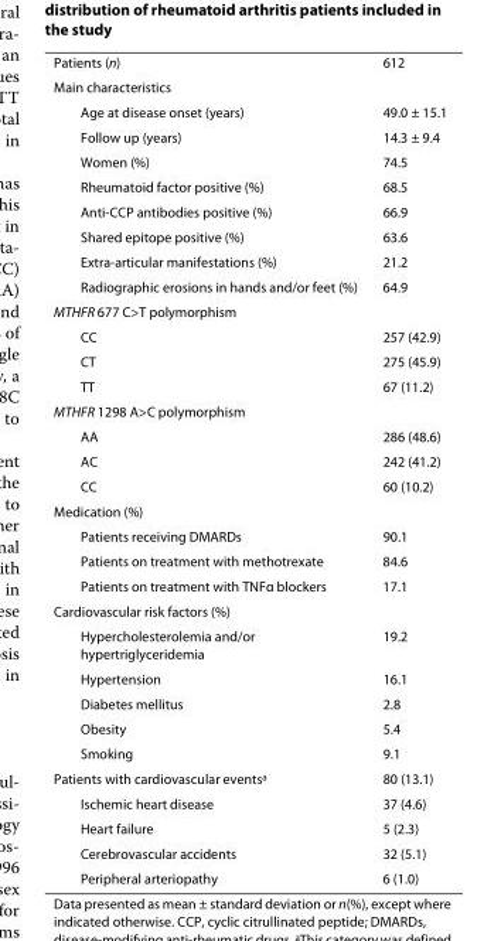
<table><tbody><tr><td>Patients (n)</td><td>612</td></tr><tr><td colspan="2">Main characteristics</td></tr><tr><td>Age at disease onset (years)</td><td>49.0 ± 15.1</td></tr><tr><td>Follow up (years)</td><td>14.3 ± 9.4</td></tr><tr><td>Women (%)</td><td>74.5</td></tr><tr><td>Rheumatoid factor positive (%)</td><td>68.5</td></tr><tr><td>Anti-CCP antibodies positive (%)</td><td>66.9</td></tr><tr><td>Shared epitope positive (%)</td><td>63.6</td></tr><tr><td>Extra-articular manifestations (%)</td><td>21.2</td></tr><tr><td>Radiographic erosions in hands and/or feet (%)</td><td>64.9</td></tr><tr><td colspan="2">MTHFR 677 C&gt;T polymorphism</td></tr><tr><td>CC</td><td>257 (42.9)</td></tr><tr><td>CT</td><td>275 (45.9)</td></tr><tr><td>TT</td><td>67 (11.2)</td></tr><tr><td colspan="2">MTHFR 1298 A&gt;C polymorphism</td></tr><tr><td>AA</td><td>286 (48.6)</td></tr><tr><td>AC</td><td>242 (41.2)</td></tr><tr><td>CC</td><td>60 (10.2)</td></tr><tr><td colspan="2">Medication (%)</td></tr><tr><td>Patients receiving DMARDs</td><td>90.1</td></tr><tr><td>Patients on treatment with methotrexate</td><td>84.6</td></tr><tr><td>Patients on treatment with TNFα blockers</td><td>17.1</td></tr><tr><td colspan="2">Cardiovascular risk factors (%)</td></tr><tr><td>Hypercholesterolemia and/or hypertriglyceridemia</td><td>19.2</td></tr><tr><td>Hypertension</td><td>16.1</td></tr><tr><td>Diabetes mellitus</td><td>2.8</td></tr><tr><td>Obesity</td><td>5.4</td></tr><tr><td>Smoking</td><td>9.1</td></tr><tr><td>Patients with cardiovascular events<sup>a</sup></td><td>80 (13.1)</td></tr><tr><td>Ischemic heart disease</td><td>37 (4.6)</td></tr><tr><td>Heart failure</td><td>5 (2.3)</td></tr><tr><td>Cerebrovascular accidents</td><td>32 (5.1)</td></tr><tr><td>Peripheral arteriopathy</td><td>6 (1.0)</td></tr></tbody></table>